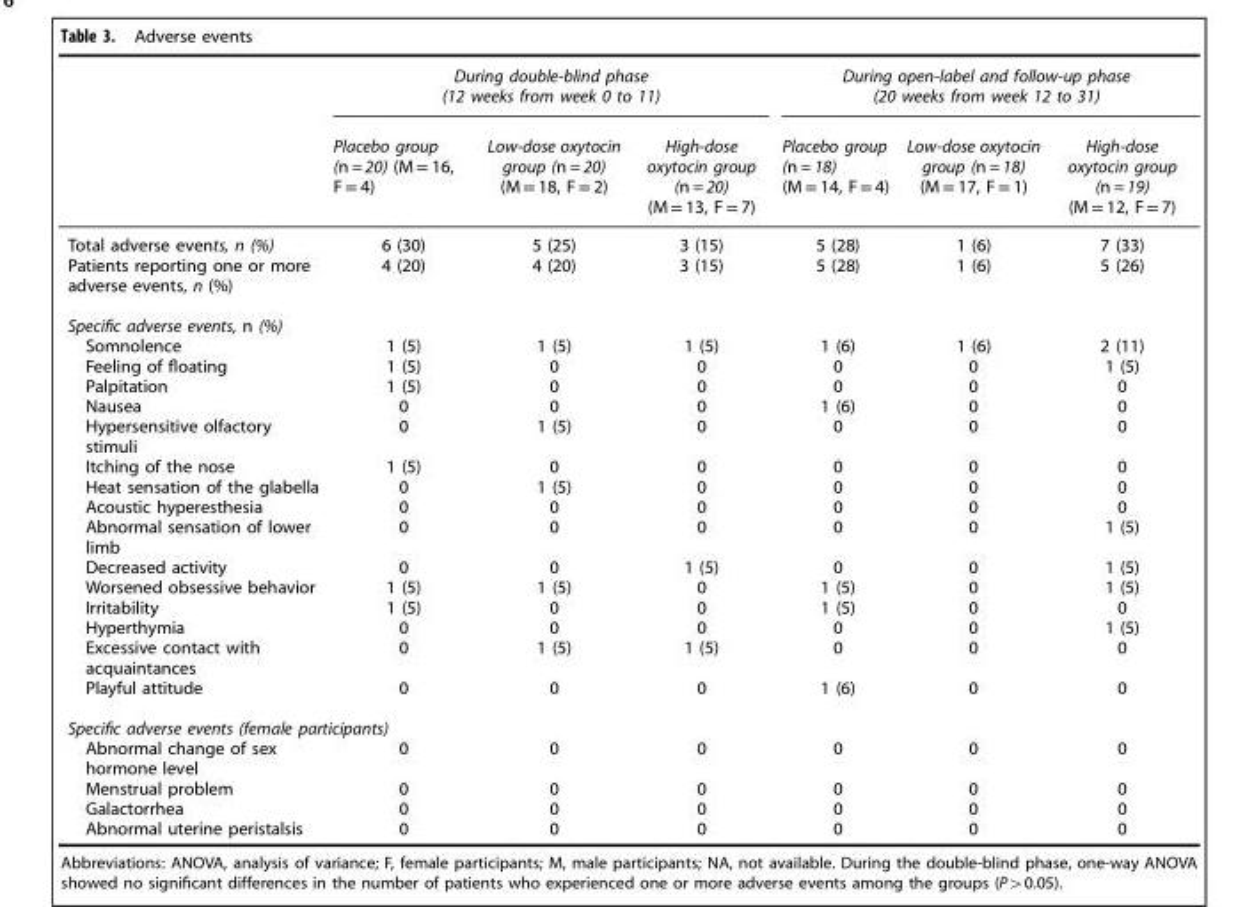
<table><thead><tr><td rowspan="2"></td><td colspan="3">During double-blind phase (12 weeks from week 0 to 11)</td><td colspan="3">During open-label and follow-up phase (20 weeks from week 12 to 31)</td></tr><tr><td>Placebo group (n = 20) (M = 16, F = 4)</td><td>Low-dose oxytocin group (n = 20) (M = 18, F = 2)</td><td>High-dose oxytocin group (n = 20) (M = 13, F = 7)</td><td>Placebo group (n = 18) (M = 14, F = 4)</td><td>Low-dose oxytocin group (n = 18) (M = 17, F = 1)</td><td>High-dose oxytocin group (n = 19) (M = 12, F = 7)</td></tr></thead><tbody><tr><td>Total adverse events, n (%)</td><td>6 (30)</td><td>5 (25)</td><td>3 (15)</td><td>5 (28)</td><td>1 (6)</td><td>7 (33)</td></tr><tr><td>Patients reporting one or more adverse events, n (%)</td><td>4 (20)</td><td>4 (20)</td><td>3 (15)</td><td>5 (28)</td><td>1 (6)</td><td>5 (26)</td></tr><tr><td colspan="7">Specific adverse events, n (%)</td></tr><tr><td>Somnolence</td><td>1 (5)</td><td>1 (5)</td><td>1 (5)</td><td>1 (6)</td><td>1 (6)</td><td>2 (11)</td></tr><tr><td>Feeling of floating</td><td>1 (5)</td><td>0</td><td>0</td><td>0</td><td>0</td><td>1 (5)</td></tr><tr><td>Palpitation</td><td>1 (5)</td><td>0</td><td>0</td><td>0</td><td>0</td><td>0</td></tr><tr><td>Nausea</td><td>0</td><td>0</td><td>0</td><td>1 (6)</td><td>0</td><td>0</td></tr><tr><td>Hypersensitive olfactory stimuli</td><td>0</td><td>1 (5)</td><td>0</td><td>0</td><td>0</td><td>0</td></tr><tr><td>Itching of the nose</td><td>1 (5)</td><td>0</td><td>0</td><td>0</td><td>0</td><td>0</td></tr><tr><td>Heat sensation of the glabella</td><td>0</td><td>1 (5)</td><td>0</td><td>0</td><td>0</td><td>0</td></tr><tr><td>Acoustic hyperesthesia</td><td>0</td><td>0</td><td>0</td><td>0</td><td>0</td><td>0</td></tr><tr><td>Abnormal sensation of lower limb</td><td>0</td><td>0</td><td>0</td><td>0</td><td>0</td><td>1 (5)</td></tr><tr><td>Decreased activity</td><td>0</td><td>0</td><td>1 (5)</td><td>0</td><td>0</td><td>1 (5)</td></tr><tr><td>Worsened obsessive behavior</td><td>1 (5)</td><td>1 (5)</td><td>0</td><td>1 (5)</td><td>0</td><td>1 (5)</td></tr><tr><td>Irritability</td><td>1 (5)</td><td>0</td><td>0</td><td>1 (5)</td><td>0</td><td>0</td></tr><tr><td>Hyperthymia</td><td>0</td><td>0</td><td>0</td><td>0</td><td>0</td><td>1 (5)</td></tr><tr><td>Excessive contact with acquaintances</td><td>0</td><td>1 (5)</td><td>1 (5)</td><td>0</td><td>0</td><td>0</td></tr><tr><td>Playful attitude</td><td>0</td><td>0</td><td>0</td><td>1 (6)</td><td>0</td><td>0</td></tr><tr><td colspan="7">Specific adverse events (female participants)</td></tr><tr><td>Abnormal change of sex hormone level</td><td>0</td><td>0</td><td>0</td><td>0</td><td>0</td><td>0</td></tr><tr><td>Menstrual problem</td><td>0</td><td>0</td><td>0</td><td>0</td><td>0</td><td>0</td></tr><tr><td>Galactorrhea</td><td>0</td><td>0</td><td>0</td><td>0</td><td>0</td><td>0</td></tr><tr><td>Abnormal uterine peristalsis</td><td>0</td><td>0</td><td>0</td><td>0</td><td>0</td><td>0</td></tr></tbody></table>